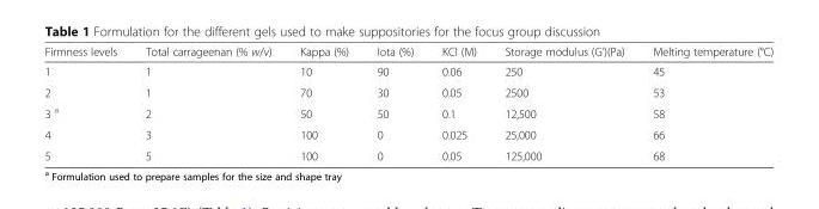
<table><thead><tr><td>Firmness levels</td><td>Total carrageenan (% w/v)</td><td>Kappa (%)</td><td>Iota (%)</td><td>KCl (M)</td><td>Storage modulus (G’)(Pa)</td><td>Melting temperature (°C)</td></tr></thead><tbody><tr><td>1</td><td>1</td><td>10</td><td>90</td><td>0.06</td><td>250</td><td>45</td></tr><tr><td>2</td><td>1</td><td>70</td><td>30</td><td>0.05</td><td>2500</td><td>53</td></tr><tr><td>3 <sup>a</sup></td><td>2</td><td>50</td><td>50</td><td>0.1</td><td>12,500</td><td>58</td></tr><tr><td>4</td><td>3</td><td>100</td><td>0</td><td>0.025</td><td>25,000</td><td>66</td></tr><tr><td>5</td><td>5</td><td>100</td><td>0</td><td>0.05</td><td>125,000</td><td>68</td></tr></tbody></table>